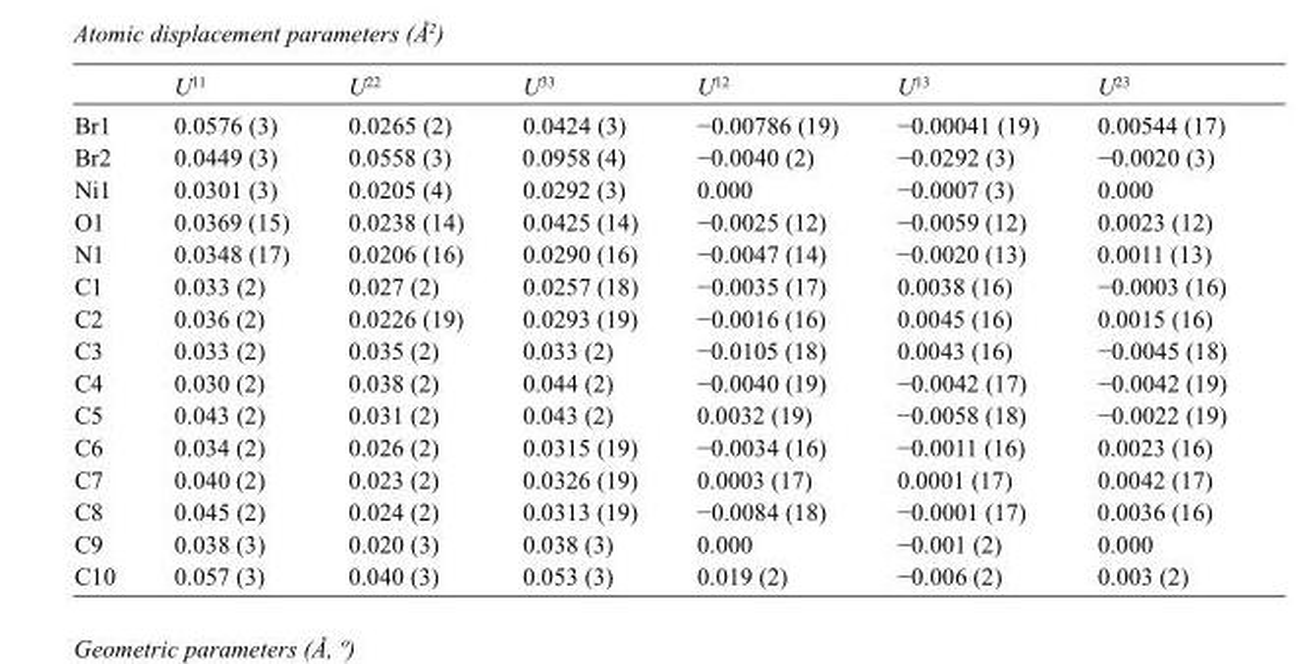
<table><thead><tr><td></td><td>U<sup>11</sup></td><td>U<sup>22</sup></td><td>U<sup>33</sup></td><td>U<sup>12</sup></td><td>U<sup>13</sup></td><td>U<sup>23</sup></td></tr></thead><tbody><tr><td>Br1</td><td>0.0576 (3)</td><td>0.0265 (2)</td><td>0.0424 (3)</td><td>−0.00786 (19)</td><td>−0.00041 (19)</td><td>0.00544 (17)</td></tr><tr><td>Br2</td><td>0.0449 (3)</td><td>0.0558 (3)</td><td>0.0958 (4)</td><td>−0.0040 (2)</td><td>−0.0292 (3)</td><td>−0.0020 (3)</td></tr><tr><td>Ni1</td><td>0.0301 (3)</td><td>0.0205 (4)</td><td>0.0292 (3)</td><td>0.000</td><td>−0.0007 (3)</td><td>0.000</td></tr><tr><td>O1</td><td>0.0369 (15)</td><td>0.0238 (14)</td><td>0.0425 (14)</td><td>−0.0025 (12)</td><td>−0.0059 (12)</td><td>0.0023 (12)</td></tr><tr><td>N1</td><td>0.0348 (17)</td><td>0.0206 (16)</td><td>0.0290 (16)</td><td>−0.0047 (14)</td><td>−0.0020 (13)</td><td>0.0011 (13)</td></tr><tr><td>C1</td><td>0.033 (2)</td><td>0.027 (2)</td><td>0.0257 (18)</td><td>−0.0035 (17)</td><td>0.0038 (16)</td><td>−0.0003 (16)</td></tr><tr><td>C2</td><td>0.036 (2)</td><td>0.0226 (19)</td><td>0.0293 (19)</td><td>−0.0016 (16)</td><td>0.0045 (16)</td><td>0.0015 (16)</td></tr><tr><td>C3</td><td>0.033 (2)</td><td>0.035 (2)</td><td>0.033 (2)</td><td>−0.0105 (18)</td><td>0.0043 (16)</td><td>−0.0045 (18)</td></tr><tr><td>C4</td><td>0.030 (2)</td><td>0.038 (2)</td><td>0.044 (2)</td><td>−0.0040 (19)</td><td>−0.0042 (17)</td><td>−0.0042 (19)</td></tr><tr><td>C5</td><td>0.043 (2)</td><td>0.031 (2)</td><td>0.043 (2)</td><td>0.0032 (19)</td><td>−0.0058 (18)</td><td>−0.0022 (19)</td></tr><tr><td>C6</td><td>0.034 (2)</td><td>0.026 (2)</td><td>0.0315 (19)</td><td>−0.0034 (16)</td><td>−0.0011 (16)</td><td>0.0023 (16)</td></tr><tr><td>C7</td><td>0.040 (2)</td><td>0.023 (2)</td><td>0.0326 (19)</td><td>0.0003 (17)</td><td>0.0001 (17)</td><td>0.0042 (17)</td></tr><tr><td>C8</td><td>0.045 (2)</td><td>0.024 (2)</td><td>0.0313 (19)</td><td>−0.0084 (18)</td><td>−0.0001 (17)</td><td>0.0036 (16)</td></tr><tr><td>C9</td><td>0.038 (3)</td><td>0.020 (3)</td><td>0.038 (3)</td><td>0.000</td><td>−0.001 (2)</td><td>0.000</td></tr><tr><td>C10</td><td>0.057 (3)</td><td>0.040 (3)</td><td>0.053 (3)</td><td>0.019 (2)</td><td>−0.006 (2)</td><td>0.003 (2)</td></tr></tbody></table>